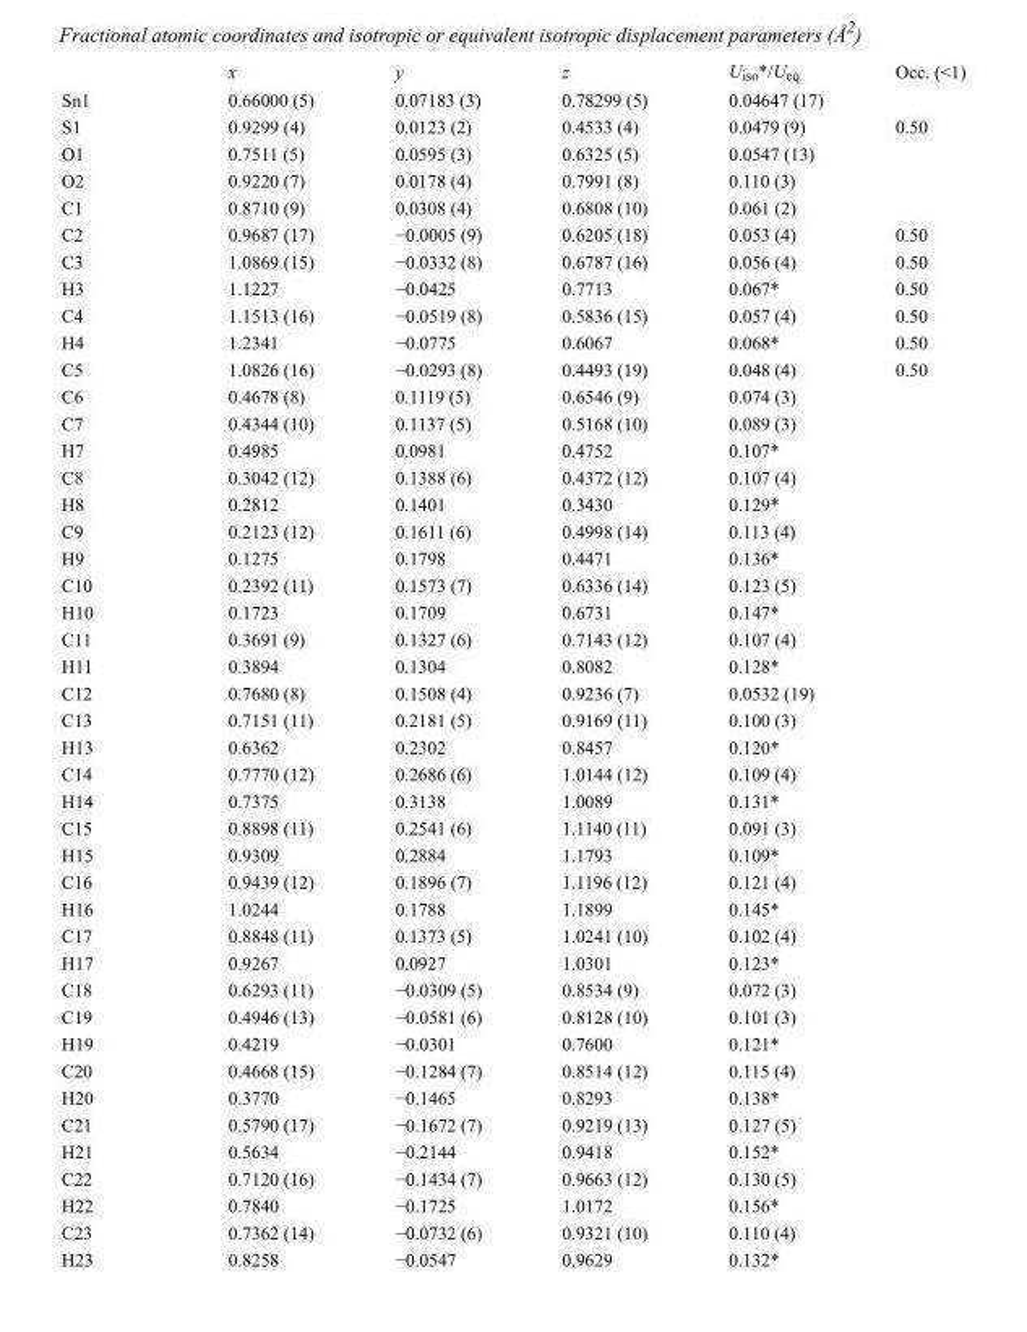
<table><thead><tr><td></td><td>x</td><td>y</td><td>z</td><td>U<sub>iso</sub>*/U<sub>eq</sub></td><td>Occ. (&lt;1)</td></tr></thead><tbody><tr><td>Sn1</td><td>0.66000 (5)</td><td>0.07183 (3)</td><td>0.78299 (5)</td><td>0.04647 (17)</td><td></td></tr><tr><td>S1</td><td>0.9299 (4)</td><td>0.0123 (2)</td><td>0.4533 (4)</td><td>0.0479 (9)</td><td>0.50</td></tr><tr><td>O1</td><td>0.7511 (5)</td><td>0.0595 (3)</td><td>0.6325 (5)</td><td>0.0547 (13)</td><td></td></tr><tr><td>O2</td><td>0.9220 (7)</td><td>0.0178 (4)</td><td>0.7991 (8)</td><td>0.110 (3)</td><td></td></tr><tr><td>C1</td><td>0.8710 (9)</td><td>0.0308 (4)</td><td>0.6808 (10)</td><td>0.061 (2)</td><td></td></tr><tr><td>C2</td><td>0.9687 (17)</td><td>−0.0005 (9)</td><td>0.6205 (18)</td><td>0.053 (4)</td><td>0.50</td></tr><tr><td>C3</td><td>1.0869 (15)</td><td>−0.0332 (8)</td><td>0.6787 (16)</td><td>0.056 (4)</td><td>0.50</td></tr><tr><td>H3</td><td>1.1227</td><td>−0.0425</td><td>0.7713</td><td>0.067*</td><td>0.50</td></tr><tr><td>C4</td><td>1.1513 (16)</td><td>−0.0519 (8)</td><td>0.5836 (15)</td><td>0.057 (4)</td><td>0.50</td></tr><tr><td>H4</td><td>1.2341</td><td>−0.0775</td><td>0.6067</td><td>0.068*</td><td>0.50</td></tr><tr><td>C5</td><td>1.0826 (16)</td><td>−0.0293 (8)</td><td>0.4493 (19)</td><td>0.048 (4)</td><td>0.50</td></tr><tr><td>C6</td><td>0.4678 (8)</td><td>0.1119 (5)</td><td>0.6546 (9)</td><td>0.074 (3)</td><td></td></tr><tr><td>C7</td><td>0.4344 (10)</td><td>0.1137 (5)</td><td>0.5168 (10)</td><td>0.089 (3)</td><td></td></tr><tr><td>H7</td><td>0.4985</td><td>0.0981</td><td>0.4752</td><td>0.107*</td><td></td></tr><tr><td>C8</td><td>0.3042 (12)</td><td>0.1388 (6)</td><td>0.4372 (12)</td><td>0.107 (4)</td><td></td></tr><tr><td>H8</td><td>0.2812</td><td>0.1401</td><td>0.3430</td><td>0.129*</td><td></td></tr><tr><td>C9</td><td>0.2123 (12)</td><td>0.1611 (6)</td><td>0.4998 (14)</td><td>0.113 (4)</td><td></td></tr><tr><td>H9</td><td>0.1275</td><td>0.1798</td><td>0.4471</td><td>0.136*</td><td></td></tr><tr><td>C10</td><td>0.2392 (11)</td><td>0.1573 (7)</td><td>0.6336 (14)</td><td>0.123 (5)</td><td></td></tr><tr><td>H10</td><td>0.1723</td><td>0.1709</td><td>0.6731</td><td>0.147*</td><td></td></tr><tr><td>C11</td><td>0.3691 (9)</td><td>0.1327 (6)</td><td>0.7143 (12)</td><td>0.107 (4)</td><td></td></tr><tr><td>H11</td><td>0.3894</td><td>0.1304</td><td>0.8082</td><td>0.128*</td><td></td></tr><tr><td>C12</td><td>0.7680 (8)</td><td>0.1508 (4)</td><td>0.9236 (7)</td><td>0.0532 (19)</td><td></td></tr><tr><td>C13</td><td>0.7151 (11)</td><td>0.2181 (5)</td><td>0.9169 (11)</td><td>0.100 (3)</td><td></td></tr><tr><td>H13</td><td>0.6362</td><td>0.2302</td><td>0.8457</td><td>0.120*</td><td></td></tr><tr><td>C14</td><td>0.7770 (12)</td><td>0.2686 (6)</td><td>1.0144 (12)</td><td>0.109 (4)</td><td></td></tr><tr><td>H14</td><td>0.7375</td><td>0.3138</td><td>1.0089</td><td>0.131*</td><td></td></tr><tr><td>C15</td><td>0.8898 (11)</td><td>0.2541 (6)</td><td>1.1140 (11)</td><td>0.091 (3)</td><td></td></tr><tr><td>H15</td><td>0.9309</td><td>0.2884</td><td>1.1793</td><td>0.109*</td><td></td></tr><tr><td>C16</td><td>0.9439 (12)</td><td>0.1896 (7)</td><td>1.1196 (12)</td><td>0.121 (4)</td><td></td></tr><tr><td>H16</td><td>1.0244</td><td>0.1788</td><td>1.1899</td><td>0.145*</td><td></td></tr><tr><td>C17</td><td>0.8848 (11)</td><td>0.1373 (5)</td><td>1.0241 (10)</td><td>0.102 (4)</td><td></td></tr><tr><td>H17</td><td>0.9267</td><td>0.0927</td><td>1.0301</td><td>0.123*</td><td></td></tr><tr><td>C18</td><td>0.6293 (11)</td><td>−0.0309 (5)</td><td>0.8534 (9)</td><td>0.072 (3)</td><td></td></tr><tr><td>C19</td><td>0.4946 (13)</td><td>−0.0581 (6)</td><td>0.8128 (10)</td><td>0.101 (3)</td><td></td></tr><tr><td>H19</td><td>0.4219</td><td>−0.0301</td><td>0.7600</td><td>0.121*</td><td></td></tr><tr><td>C20</td><td>0.4668 (15)</td><td>−0.1284 (7)</td><td>0.8514 (12)</td><td>0.115 (4)</td><td></td></tr><tr><td>H20</td><td>0.3770</td><td>−0.1465</td><td>0.8293</td><td>0.138*</td><td></td></tr><tr><td>C21</td><td>0.5790 (17)</td><td>−0.1672 (7)</td><td>0.9219 (13)</td><td>0.127 (5)</td><td></td></tr><tr><td>H21</td><td>0.5634</td><td>−0.2144</td><td>0.9418</td><td>0.152*</td><td></td></tr><tr><td>C22</td><td>0.7120 (16)</td><td>−0.1434 (7)</td><td>0.9663 (12)</td><td>0.130 (5)</td><td></td></tr><tr><td>H22</td><td>0.7840</td><td>−0.1725</td><td>1.0172</td><td>0.156*</td><td></td></tr><tr><td>C23</td><td>0.7362 (14)</td><td>−0.0732 (6)</td><td>0.9321 (10)</td><td>0.110 (4)</td><td></td></tr><tr><td>H23</td><td>0.8258</td><td>−0.0547</td><td>0.9629</td><td>0.132*</td><td></td></tr></tbody></table>